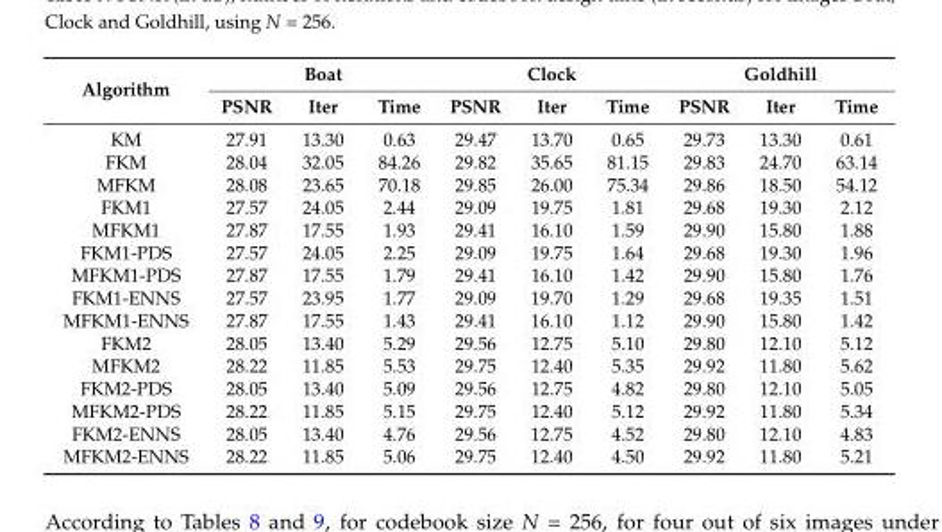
<table><thead><tr><td rowspan="2">Algorithm</td><td colspan="3">Boat</td><td colspan="3">Clock</td><td colspan="3">Goldhill</td></tr><tr><td>PSNR</td><td>Iter</td><td>Time</td><td>PSNR</td><td>Iter</td><td>Time</td><td>PSNR</td><td>Iter</td><td>Time</td></tr></thead><tbody><tr><td>KM</td><td>27.91</td><td>13.30</td><td>0.63</td><td>29.47</td><td>13.70</td><td>0.65</td><td>29.73</td><td>13.30</td><td>0.61</td></tr><tr><td>FKM</td><td>28.04</td><td>32.05</td><td>84.26</td><td>29.82</td><td>35.65</td><td>81.15</td><td>29.83</td><td>24.70</td><td>63.14</td></tr><tr><td>MFKM</td><td>28.08</td><td>23.65</td><td>70.18</td><td>29.85</td><td>26.00</td><td>75.34</td><td>29.86</td><td>18.50</td><td>54.12</td></tr><tr><td>FKM1</td><td>27.57</td><td>24.05</td><td>2.44</td><td>29.09</td><td>19.75</td><td>1.81</td><td>29.68</td><td>19.30</td><td>2.12</td></tr><tr><td>MFKM1</td><td>27.87</td><td>17.55</td><td>1.93</td><td>29.41</td><td>16.10</td><td>1.59</td><td>29.90</td><td>15.80</td><td>1.88</td></tr><tr><td>FKM1-PDS</td><td>27.57</td><td>24.05</td><td>2.25</td><td>29.09</td><td>19.75</td><td>1.64</td><td>29.68</td><td>19.30</td><td>1.96</td></tr><tr><td>MFKM1-PDS</td><td>27.87</td><td>17.55</td><td>1.79</td><td>29.41</td><td>16.10</td><td>1.42</td><td>29.90</td><td>15.80</td><td>1.76</td></tr><tr><td>FKM1-ENNS</td><td>27.57</td><td>23.95</td><td>1.77</td><td>29.09</td><td>19.70</td><td>1.29</td><td>29.68</td><td>19.35</td><td>1.51</td></tr><tr><td>MFKM1-ENNS</td><td>27.87</td><td>17.55</td><td>1.43</td><td>29.41</td><td>16.10</td><td>1.12</td><td>29.90</td><td>15.80</td><td>1.42</td></tr><tr><td>FKM2</td><td>28.05</td><td>13.40</td><td>5.29</td><td>29.56</td><td>12.75</td><td>5.10</td><td>29.80</td><td>12.10</td><td>5.12</td></tr><tr><td>MFKM2</td><td>28.22</td><td>11.85</td><td>5.53</td><td>29.75</td><td>12.40</td><td>5.35</td><td>29.92</td><td>11.80</td><td>5.62</td></tr><tr><td>FKM2-PDS</td><td>28.05</td><td>13.40</td><td>5.09</td><td>29.56</td><td>12.75</td><td>4.82</td><td>29.80</td><td>12.10</td><td>5.05</td></tr><tr><td>MFKM2-PDS</td><td>28.22</td><td>11.85</td><td>5.15</td><td>29.75</td><td>12.40</td><td>5.12</td><td>29.92</td><td>11.80</td><td>5.34</td></tr><tr><td>FKM2-ENNS</td><td>28.05</td><td>13.40</td><td>4.76</td><td>29.56</td><td>12.75</td><td>4.52</td><td>29.80</td><td>12.10</td><td>4.83</td></tr><tr><td>MFKM2-ENNS</td><td>28.22</td><td>11.85</td><td>5.06</td><td>29.75</td><td>12.40</td><td>4.50</td><td>29.92</td><td>11.80</td><td>5.21</td></tr></tbody></table>